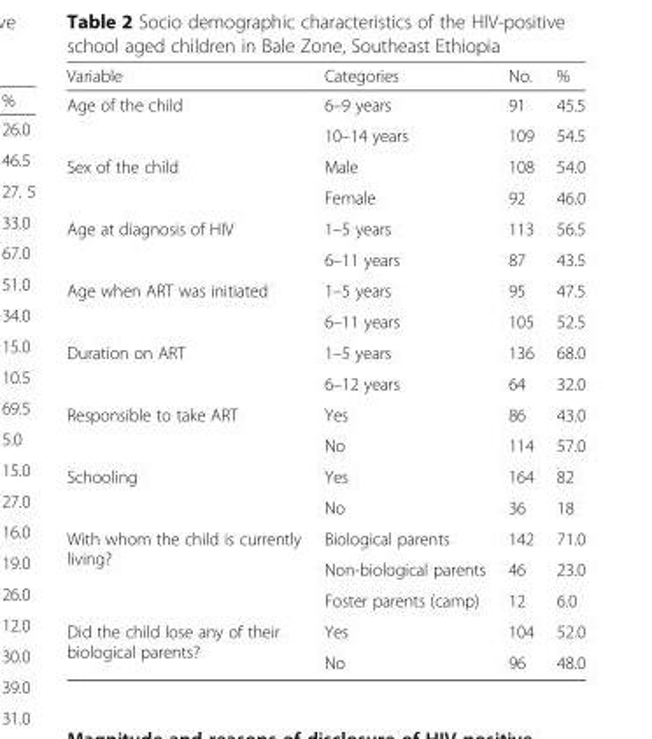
<table><thead><tr><td>Variable</td><td>Categories</td><td>No.</td><td>%</td></tr></thead><tbody><tr><td rowspan="2">Age of the child</td><td>6–9 years</td><td>91</td><td>45.5</td></tr><tr><td>10–14 years</td><td>109</td><td>54.5</td></tr><tr><td rowspan="2">Sex of the child</td><td>Male</td><td>108</td><td>54.0</td></tr><tr><td>Female</td><td>92</td><td>46.0</td></tr><tr><td rowspan="2">Age at diagnosis of HIV</td><td>1–5 years</td><td>113</td><td>56.5</td></tr><tr><td>6–11 years</td><td>87</td><td>43.5</td></tr><tr><td rowspan="2">Age when ART was initiated</td><td>1–5 years</td><td>95</td><td>47.5</td></tr><tr><td>6–11 years</td><td>105</td><td>52.5</td></tr><tr><td rowspan="2">Duration on ART</td><td>1–5 years</td><td>136</td><td>68.0</td></tr><tr><td>6–12 years</td><td>64</td><td>32.0</td></tr><tr><td rowspan="2">Responsible to take ART</td><td>Yes</td><td>86</td><td>43.0</td></tr><tr><td>No</td><td>114</td><td>57.0</td></tr><tr><td rowspan="2">Schooling</td><td>Yes</td><td>164</td><td>82</td></tr><tr><td>No</td><td>36</td><td>18</td></tr><tr><td rowspan="3">With whom the child is currently living?</td><td>Biological parents</td><td>142</td><td>71.0</td></tr><tr><td>Non-biological parents</td><td>46</td><td>23.0</td></tr><tr><td>Foster parents (camp)</td><td>12</td><td>6.0</td></tr><tr><td rowspan="2">Did the child lose any of their biological parents?</td><td>Yes</td><td>104</td><td>52.0</td></tr><tr><td>No</td><td>96</td><td>48.0</td></tr></tbody></table>